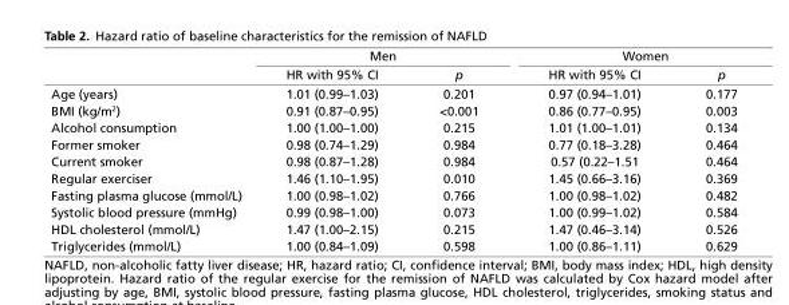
<table><thead><tr><td rowspan="2"></td><td colspan="2">Men</td><td colspan="2">Women</td></tr><tr><td>HR with 95% CI</td><td>p</td><td>HR with 95% CI</td><td>p</td></tr></thead><tbody><tr><td>Age (years)</td><td>1.01 (0.99–1.03)</td><td>0.201</td><td>0.97 (0.94–1.01)</td><td>0.177</td></tr><tr><td>BMI (kg/m<sup>2</sup>)</td><td>0.91 (0.87–0.95)</td><td>&lt;0.001</td><td>0.86 (0.77–0.95)</td><td>0.003</td></tr><tr><td>Alcohol consumption</td><td>1.00 (1.00–1.00)</td><td>0.215</td><td>1.01 (1.00–1.01)</td><td>0.134</td></tr><tr><td>Former smoker</td><td>0.98 (0.74–1.29)</td><td>0.984</td><td>0.77 (0.18–3.28)</td><td>0.464</td></tr><tr><td>Current smoker</td><td>0.98 (0.87–1.28)</td><td>0.984</td><td>0.57 (0.22–1.51</td><td>0.464</td></tr><tr><td>Regular exerciser</td><td>1.46 (1.10–1.95)</td><td>0.010</td><td>1.45 (0.66–3.16)</td><td>0.369</td></tr><tr><td>Fasting plasma glucose (mmol/L)</td><td>1.00 (0.98–1.02)</td><td>0.766</td><td>1.00 (0.98–1.02)</td><td>0.482</td></tr><tr><td>Systolic blood pressure (mmHg)</td><td>0.99 (0.98–1.00)</td><td>0.073</td><td>1.00 (0.99–1.02)</td><td>0.584</td></tr><tr><td>HDL cholesterol (mmol/L)</td><td>1.47 (1.00–2.15)</td><td>0.215</td><td>1.47 (0.46–3.14)</td><td>0.526</td></tr><tr><td>Triglycerides (mmol/L)</td><td>1.00 (0.84–1.09)</td><td>0.598</td><td>1.00 (0.86–1.11)</td><td>0.629</td></tr></tbody></table>